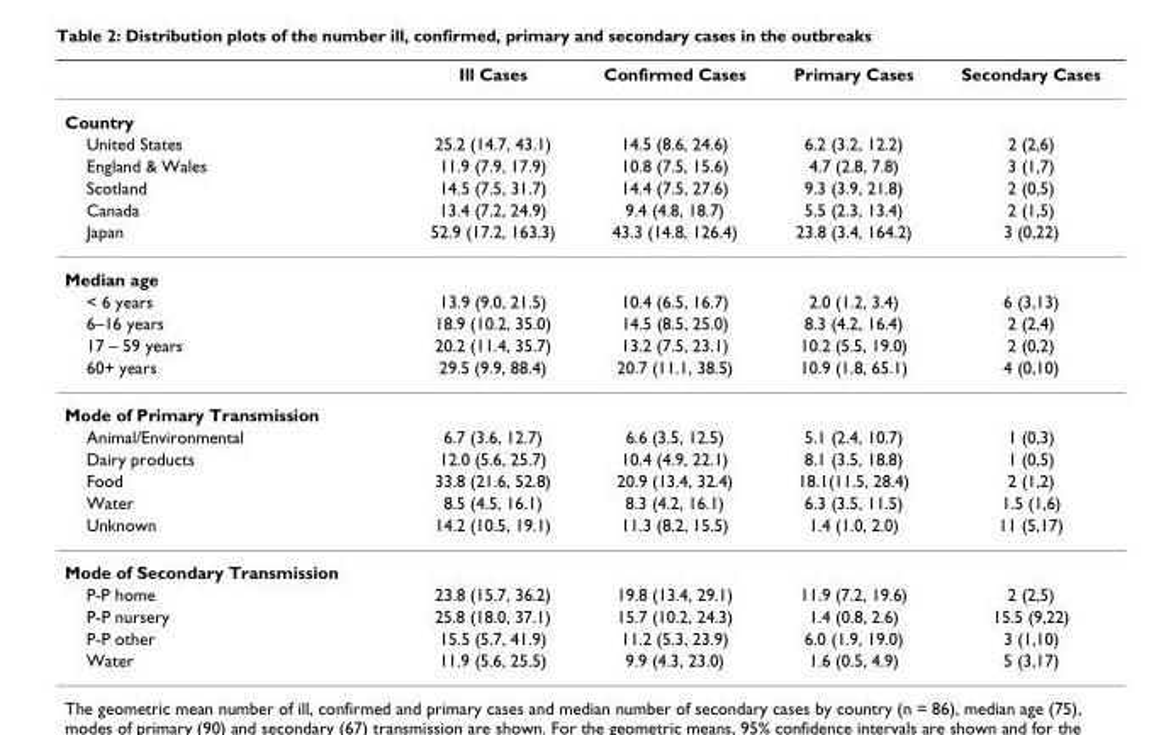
<table><thead><tr><td></td><td>Ill Cases</td><td>Confirmed Cases</td><td>Primary Cases</td><td>Secondary Cases</td></tr></thead><tbody><tr><td colspan="5">Country</td></tr><tr><td>United States</td><td>25.2 (14.7, 43.1)</td><td>14.5 (8.6, 24.6)</td><td>6.2 (3.2, 12.2)</td><td>2 (2,6)</td></tr><tr><td>England &amp; Wales</td><td>11.9 (7.9, 17.9)</td><td>10.8 (7.5, 15.6)</td><td>4.7 (2.8, 7.8)</td><td>3 (1,7)</td></tr><tr><td>Scotland</td><td>14.5 (7.5, 31.7)</td><td>14.4 (7.5, 27.6)</td><td>9.3 (3.9, 21.8)</td><td>2 (0,5)</td></tr><tr><td>Canada</td><td>13.4 (7.2, 24.9)</td><td>9.4 (4.8, 18.7)</td><td>5.5 (2.3, 13.4)</td><td>2 (1,5)</td></tr><tr><td>Japan</td><td>52.9 (17.2, 163.3)</td><td>43.3 (14.8, 126.4)</td><td>23.8 (3.4, 164.2)</td><td>3 (0,22)</td></tr><tr><td colspan="5">Median age</td></tr><tr><td>&lt; 6 years</td><td>13.9 (9.0, 21.5)</td><td>10.4 (6.5, 16.7)</td><td>2.0 (1.2, 3.4)</td><td>6 (3,13)</td></tr><tr><td>6–16 years</td><td>18.9 (10.2, 35.0)</td><td>14.5 (8.5, 25.0)</td><td>8.3 (4.2, 16.4)</td><td>2 (2,4)</td></tr><tr><td>17 – 59 years</td><td>20.2 (11.4, 35.7)</td><td>13.2 (7.5, 23.1)</td><td>10.2 (5.5, 19.0)</td><td>2 (0,2)</td></tr><tr><td>60+ years</td><td>29.5 (9.9, 88.4)</td><td>20.7 (11.1, 38.5)</td><td>10.9 (1.8, 65.1)</td><td>4 (0,10)</td></tr><tr><td colspan="5">Mode of Primary Transmission</td></tr><tr><td>Animal/Environmental</td><td>6.7 (3.6, 12.7)</td><td>6.6 (3.5, 12.5)</td><td>5.1 (2.4, 10.7)</td><td>1 (0,3)</td></tr><tr><td>Dairy products</td><td>12.0 (5.6, 25.7)</td><td>10.4 (4.9, 22.1)</td><td>8.1 (3.5, 18.8)</td><td>1 (0,5)</td></tr><tr><td>Food</td><td>33.8 (21.6, 52.8)</td><td>20.9 (13.4, 32.4)</td><td>18.1(11.5, 28.4)</td><td>2 (1,2)</td></tr><tr><td>Water</td><td>8.5 (4.5, 16.1)</td><td>8.3 (4.2, 16.1)</td><td>6.3 (3.5, 11.5)</td><td>1.5 (1,6)</td></tr><tr><td>Unknown</td><td>14.2 (10.5, 19.1)</td><td>11.3 (8.2, 15.5)</td><td>1.4 (1.0, 2.0)</td><td>11 (5,17)</td></tr><tr><td colspan="5">Mode of Secondary Transmission</td></tr><tr><td>P-P home</td><td>23.8 (15.7, 36.2)</td><td>19.8 (13.4, 29.1)</td><td>11.9 (7.2, 19.6)</td><td>2 (2,5)</td></tr><tr><td>P-P nursery</td><td>25.8 (18.0, 37.1)</td><td>15.7 (10.2, 24.3)</td><td>1.4 (0.8, 2.6)</td><td>15.5 (9,22)</td></tr><tr><td>P-P other</td><td>15.5 (5.7, 41.9)</td><td>11.2 (5.3, 23.9)</td><td>6.0 (1.9, 19.0)</td><td>3 (1,10)</td></tr><tr><td>Water</td><td>11.9 (5.6, 25.5)</td><td>9.9 (4.3, 23.0)</td><td>1.6 (0.5, 4.9)</td><td>5 (3,17)</td></tr></tbody></table>